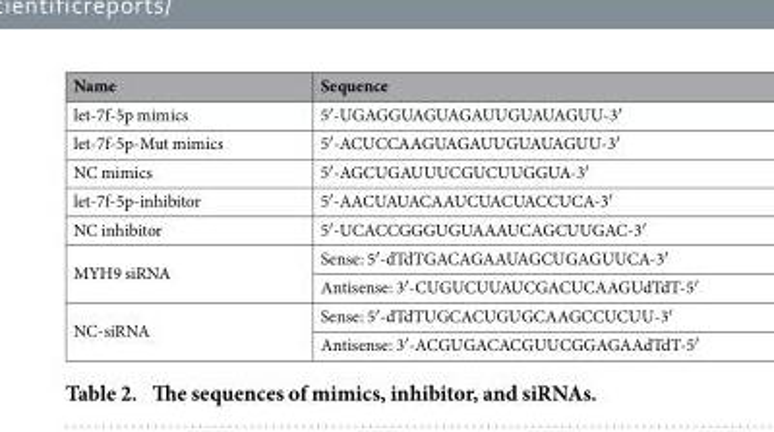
<table><thead><tr><td>Name</td><td>Sequence</td></tr></thead><tbody><tr><td>let-7f-5p mimics</td><td>5′ -UGAGGUAGUAGAUUGUAUAGUU-3′</td></tr><tr><td>let-7f-5p-Mut mimics</td><td>5′ -ACUCCAAGUAGAUUGUAUAGUU-3′</td></tr><tr><td>NC mimics</td><td>5′ -AGCUGAUUUCGUCUUGGUA-3′</td></tr><tr><td>let-7f-5p-inhibitor</td><td>5′ -AACUAUACAAUCUACUACCUCA-3′</td></tr><tr><td>NC inhibitor</td><td>5′ -UCACCGGGUGUAAAUCAGCUUGAC-3′</td></tr><tr><td rowspan="2">MYH9 siRNA</td><td>Sense: 5′ -dTdTGACAGAAUAGCUGAGUUCA-3′</td></tr><tr><td>Antisense: 3′ -CUGUCUUAUCGACUCAAGUdTdT-5′</td></tr><tr><td rowspan="2">NC-siRNA</td><td>Sense: 5′ -dTdTUGCACUGUGCAAGCCUCUU-3′</td></tr><tr><td>Antisense: 3′ -ACGUGACACGUUCGGAGAAdTdT-5′</td></tr></tbody></table>